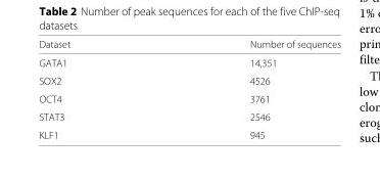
<table><thead><tr><td>Dataset</td><td>Number of sequences</td></tr></thead><tbody><tr><td>GATA1</td><td>14,351</td></tr><tr><td>SOX2</td><td>4526</td></tr><tr><td>OCT4</td><td>3761</td></tr><tr><td>STAT3</td><td>2546</td></tr><tr><td>KLF1</td><td>945</td></tr></tbody></table>